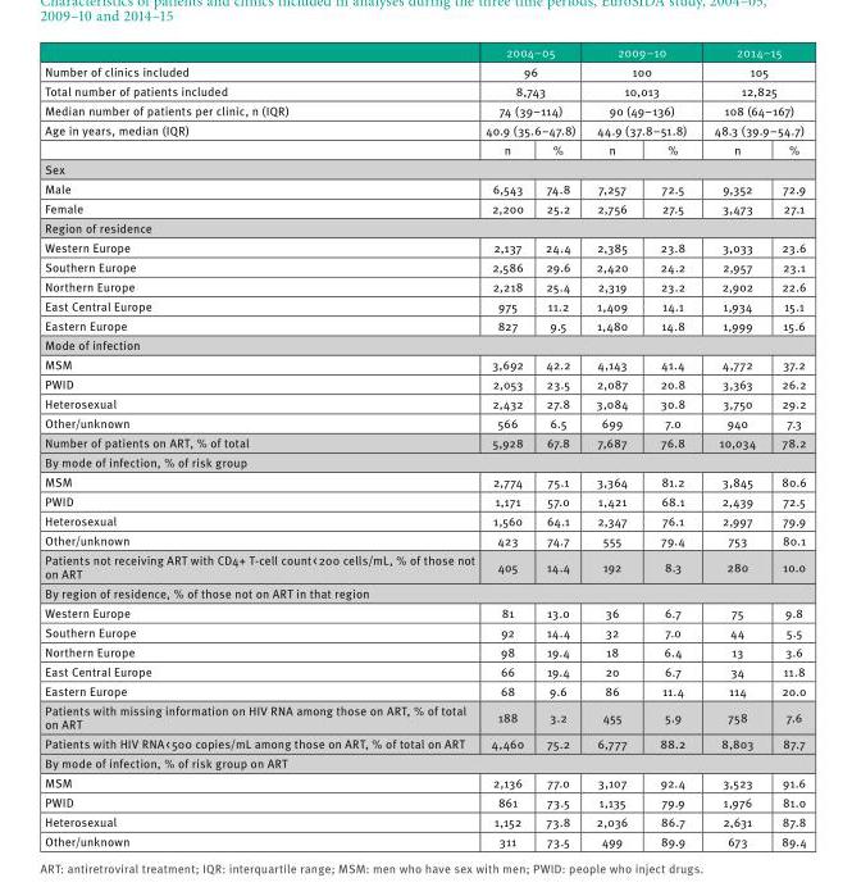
<table><thead><tr><td></td><td colspan="2">2004–05</td><td colspan="2">2009–10</td><td colspan="2">2014–15</td></tr></thead><tbody><tr><td>Number of clinics included</td><td colspan="2">96</td><td colspan="2">100</td><td colspan="2">105</td></tr><tr><td>Total number of patients included</td><td colspan="2">8,743</td><td colspan="2">10,013</td><td colspan="2">12,825</td></tr><tr><td>Median number of patients per clinic, n (IQR)</td><td colspan="2">74 (39–114)</td><td colspan="2">90 (49–136)</td><td colspan="2">108 (64–167)</td></tr><tr><td rowspan="2">Age in years, median (IQR)</td><td colspan="2">40.9 (35.6–47.8)</td><td colspan="2">44.9 (37.8–51.8)</td><td colspan="2">48.3 (39.9–54.7)</td></tr><tr><td>n</td><td>%</td><td>n</td><td>%</td><td>n</td><td>%</td></tr><tr><td colspan="7">Sex</td></tr><tr><td>Male</td><td>6,543</td><td>74.8</td><td>7,257</td><td>72.5</td><td>9,352</td><td>72.9</td></tr><tr><td>Female</td><td>2,200</td><td>25.2</td><td>2,756</td><td>27.5</td><td>3,473</td><td>27.1</td></tr><tr><td colspan="7">Region of residence</td></tr><tr><td>Western Europe</td><td>2,137</td><td>24.4</td><td>2,385</td><td>23.8</td><td>3,033</td><td>23.6</td></tr><tr><td>Southern Europe</td><td>2,586</td><td>29.6</td><td>2,420</td><td>24.2</td><td>2,957</td><td>23.1</td></tr><tr><td>Northern Europe</td><td>2,218</td><td>25.4</td><td>2,319</td><td>23.2</td><td>2,902</td><td>22.6</td></tr><tr><td>East Central Europe</td><td>975</td><td>11.2</td><td>1,409</td><td>14.1</td><td>1,934</td><td>15.1</td></tr><tr><td>Eastern Europe</td><td>827</td><td>9.5</td><td>1,480</td><td>14.8</td><td>1,999</td><td>15.6</td></tr><tr><td colspan="7">Mode of infection</td></tr><tr><td>MSM</td><td>3,692</td><td>42.2</td><td>4,143</td><td>41.4</td><td>4,772</td><td>37.2</td></tr><tr><td>PWID</td><td>2,053</td><td>23.5</td><td>2,087</td><td>20.8</td><td>3,363</td><td>26.2</td></tr><tr><td>Heterosexual</td><td>2,432</td><td>27.8</td><td>3,084</td><td>30.8</td><td>3,750</td><td>29.2</td></tr><tr><td>Other/unknown</td><td>566</td><td>6.5</td><td>699</td><td>7.0</td><td>940</td><td>7.3</td></tr><tr><td>Number of patients on ART, % of total</td><td>5,928</td><td>67.8</td><td>7,687</td><td>76.8</td><td>10,034</td><td>78.2</td></tr><tr><td colspan="7">By mode of infection, % of risk group</td></tr><tr><td>MSM</td><td>2,774</td><td>75.1</td><td>3,364</td><td>81.2</td><td>3,845</td><td>80.6</td></tr><tr><td>PWID</td><td>1,171</td><td>57.0</td><td>1,421</td><td>68.1</td><td>2,439</td><td>72.5</td></tr><tr><td>Heterosexual</td><td>1,560</td><td>64.1</td><td>2,347</td><td>76.1</td><td>2,997</td><td>79.9</td></tr><tr><td>Other/unknown</td><td>423</td><td>74.7</td><td>555</td><td>79.4</td><td>753</td><td>80.1</td></tr><tr><td>Patients not receiving ART with CD4<sup>+</sup> T-cell count &lt; 200 cells/mL, % of those not on ART</td><td>405</td><td>14.4</td><td>192</td><td>8.3</td><td>280</td><td>10.0</td></tr><tr><td colspan="7">By region of residence, % of those not on ART in that region</td></tr><tr><td>Western Europe</td><td>81</td><td>13.0</td><td>36</td><td>6.7</td><td>75</td><td>9.8</td></tr><tr><td>Southern Europe</td><td>92</td><td>14.4</td><td>32</td><td>7.0</td><td>44</td><td>5.5</td></tr><tr><td>Northern Europe</td><td>98</td><td>19.4</td><td>18</td><td>6.4</td><td>13</td><td>3.6</td></tr><tr><td>East Central Europe</td><td>66</td><td>19.4</td><td>20</td><td>6.7</td><td>34</td><td>11.8</td></tr><tr><td>Eastern Europe</td><td>68</td><td>9.6</td><td>86</td><td>11.4</td><td>114</td><td>20.0</td></tr><tr><td>Patients with missing information on HIV RNA among those on ART, % of total on ART</td><td>188</td><td>3.2</td><td>455</td><td>5.9</td><td>758</td><td>7.6</td></tr><tr><td>Patients with HIV RNA &lt; 500 copies/mL among those on ART, % of total on ART</td><td>4,460</td><td>75.2</td><td>6,777</td><td>88.2</td><td>8,803</td><td>87.7</td></tr><tr><td colspan="7">By mode of infection, % of risk group on ART</td></tr><tr><td>MSM</td><td>2,136</td><td>77.0</td><td>3,107</td><td>92.4</td><td>3,523</td><td>91.6</td></tr><tr><td>PWID</td><td>861</td><td>73.5</td><td>1,135</td><td>79.9</td><td>1,976</td><td>81.0</td></tr><tr><td>Heterosexual</td><td>1,152</td><td>73.8</td><td>2,036</td><td>86.7</td><td>2,631</td><td>87.8</td></tr><tr><td>Other/unknown</td><td>311</td><td>73.5</td><td>499</td><td>89.9</td><td>673</td><td>89.4</td></tr></tbody></table>